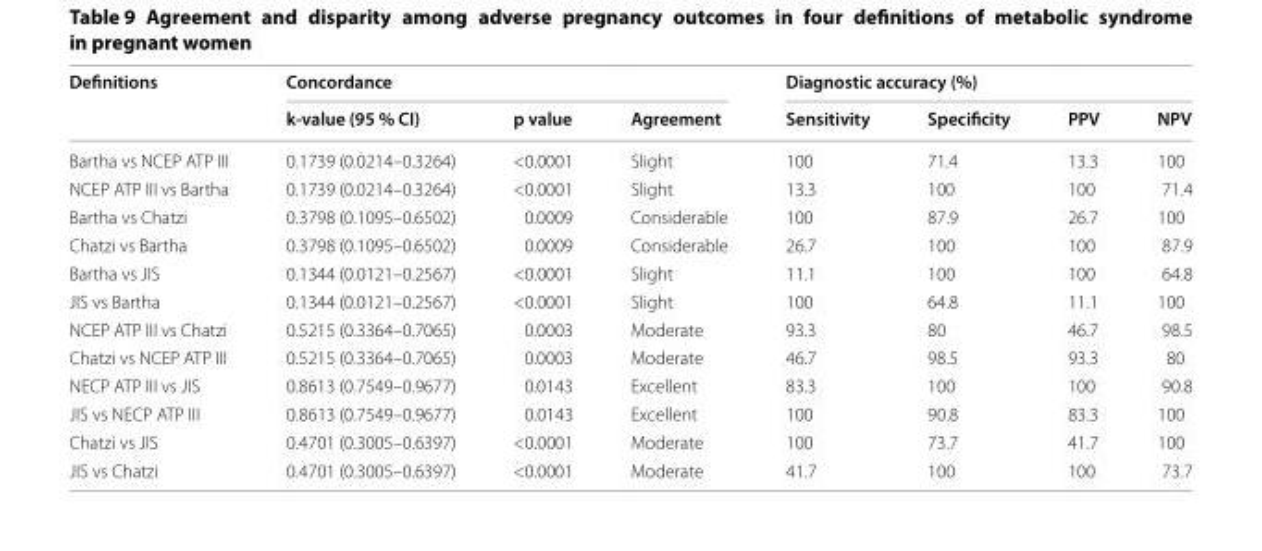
<table><thead><tr><td rowspan="2">Definitions</td><td colspan="3">Concordance</td><td colspan="4">Diagnostic accuracy (%)</td></tr><tr><td>k-value (95 % CI)</td><td>p value</td><td>Agreement</td><td>Sensitivity</td><td>Specificity</td><td>PPV</td><td>NPV</td></tr></thead><tbody><tr><td>Bartha vs NCEP ATP III</td><td>0.1739 (0.0214–0.3264)</td><td>&lt;0.0001</td><td>Slight</td><td>100</td><td>71.4</td><td>13.3</td><td>100</td></tr><tr><td>NCEP ATP III vs Bartha</td><td>0.1739 (0.0214–0.3264)</td><td>&lt;0.0001</td><td>Slight</td><td>13.3</td><td>100</td><td>100</td><td>71.4</td></tr><tr><td>Bartha vs Chatzi</td><td>0.3798 (0.1095–0.6502)</td><td>0.0009</td><td>Considerable</td><td>100</td><td>87.9</td><td>26.7</td><td>100</td></tr><tr><td>Chatzi vs Bartha</td><td>0.3798 (0.1095–0.6502)</td><td>0.0009</td><td>Considerable</td><td>26.7</td><td>100</td><td>100</td><td>87.9</td></tr><tr><td>Bartha vs JIS</td><td>0.1344 (0.0121–0.2567)</td><td>&lt;0.0001</td><td>Slight</td><td>11.1</td><td>100</td><td>100</td><td>64.8</td></tr><tr><td>JIS vs Bartha</td><td>0.1344 (0.0121–0.2567)</td><td>&lt;0.0001</td><td>Slight</td><td>100</td><td>64.8</td><td>11.1</td><td>100</td></tr><tr><td>NCEP ATP III vs Chatzi</td><td>0.5215 (0.3364–0.7065)</td><td>0.0003</td><td>Moderate</td><td>93.3</td><td>80</td><td>46.7</td><td>98.5</td></tr><tr><td>Chatzi vs NCEP ATP III</td><td>0.5215 (0.3364–0.7065)</td><td>0.0003</td><td>Moderate</td><td>46.7</td><td>98.5</td><td>93.3</td><td>80</td></tr><tr><td>NECP ATP III vs JIS</td><td>0.8613 (0.7549–0.9677)</td><td>0.0143</td><td>Excellent</td><td>83.3</td><td>100</td><td>100</td><td>90.8</td></tr><tr><td>JIS vs NECP ATP III</td><td>0.8613 (0.7549–0.9677)</td><td>0.0143</td><td>Excellent</td><td>100</td><td>90.8</td><td>83.3</td><td>100</td></tr><tr><td>Chatzi vs JIS</td><td>0.4701 (0.3005–0.6397)</td><td>&lt;0.0001</td><td>Moderate</td><td>100</td><td>73.7</td><td>41.7</td><td>100</td></tr><tr><td>JIS vs Chatzi</td><td>0.4701 (0.3005–0.6397)</td><td>&lt;0.0001</td><td>Moderate</td><td>41.7</td><td>100</td><td>100</td><td>73.7</td></tr></tbody></table>